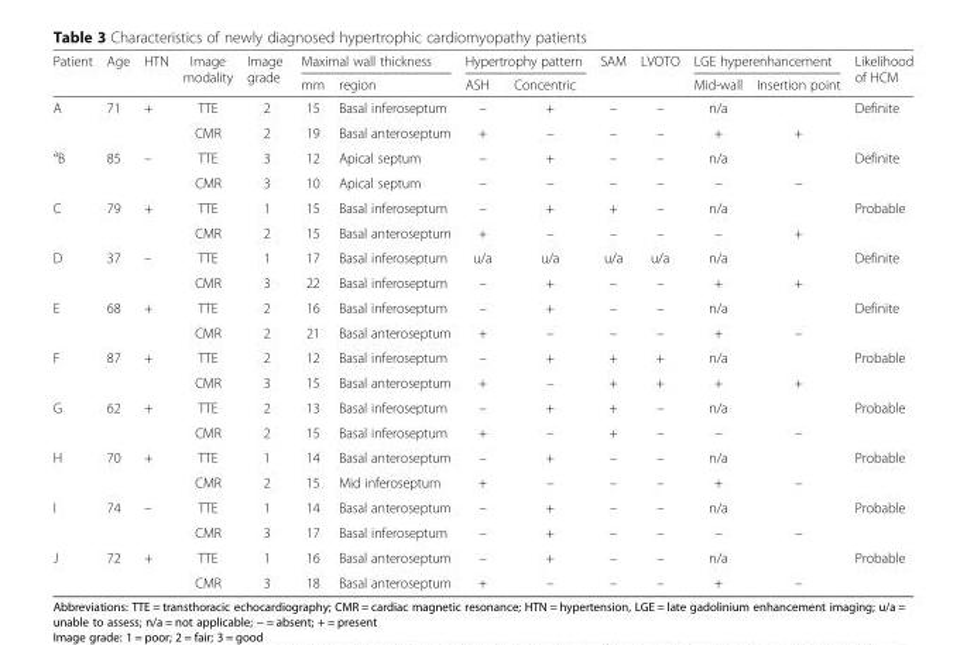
<table><thead><tr><td rowspan="2">Patient</td><td rowspan="2">Age</td><td rowspan="2">HTN</td><td rowspan="2">Image modality</td><td rowspan="2">Image grade</td><td colspan="2">Maximal wall thickness</td><td colspan="2">Hypertrophy pattern</td><td rowspan="2">SAM</td><td rowspan="2">LVOTO</td><td colspan="2">LGE hyperenhancement</td><td rowspan="2">Likelihood of HCM</td></tr><tr><td>mm</td><td>region</td><td>ASH</td><td>Concentric</td><td>Mid-wall</td><td>Insertion point</td></tr></thead><tbody><tr><td rowspan="2">A</td><td rowspan="2">71</td><td rowspan="2">+</td><td>TTE</td><td>2</td><td>15</td><td>Basal inferoseptum</td><td>–</td><td>+</td><td>–</td><td>–</td><td>n/a</td><td></td><td>Definite</td></tr><tr><td>CMR</td><td>2</td><td>19</td><td>Basal anteroseptum</td><td>+</td><td>–</td><td>–</td><td>–</td><td>+</td><td>+</td><td></td></tr><tr><td rowspan="2"><sup>a</sup>B</td><td rowspan="2">85</td><td rowspan="2">–</td><td>TTE</td><td>3</td><td>12</td><td>Apical septum</td><td>–</td><td>+</td><td>–</td><td>–</td><td>n/a</td><td></td><td>Definite</td></tr><tr><td>CMR</td><td>3</td><td>10</td><td>Apical septum</td><td>–</td><td>–</td><td>–</td><td>–</td><td>–</td><td>–</td><td></td></tr><tr><td rowspan="2">C</td><td rowspan="2">79</td><td rowspan="2">+</td><td>TTE</td><td>1</td><td>15</td><td>Basal inferoseptum</td><td>–</td><td>+</td><td>+</td><td>–</td><td>n/a</td><td></td><td>Probable</td></tr><tr><td>CMR</td><td>2</td><td>15</td><td>Basal anteroseptum</td><td>+</td><td>–</td><td>–</td><td>–</td><td>–</td><td>+</td><td></td></tr><tr><td rowspan="2">D</td><td rowspan="2">37</td><td rowspan="2">–</td><td>TTE</td><td>1</td><td>17</td><td>Basal inferoseptum</td><td>u/a</td><td>u/a</td><td>u/a</td><td>u/a</td><td>n/a</td><td></td><td>Definite</td></tr><tr><td>CMR</td><td>3</td><td>22</td><td>Basal inferoseptum</td><td>–</td><td>+</td><td>–</td><td>–</td><td>+</td><td>+</td><td></td></tr><tr><td rowspan="2">E</td><td rowspan="2">68</td><td rowspan="2">+</td><td>TTE</td><td>2</td><td>16</td><td>Basal inferoseptum</td><td>–</td><td>+</td><td>–</td><td>–</td><td>n/a</td><td></td><td>Definite</td></tr><tr><td>CMR</td><td>2</td><td>21</td><td>Basal anteroseptum</td><td>+</td><td>–</td><td>–</td><td>–</td><td>+</td><td>–</td><td></td></tr><tr><td rowspan="2">F</td><td rowspan="2">87</td><td rowspan="2">+</td><td>TTE</td><td>2</td><td>12</td><td>Basal inferoseptum</td><td>–</td><td>+</td><td>+</td><td>+</td><td>n/a</td><td></td><td>Probable</td></tr><tr><td>CMR</td><td>3</td><td>15</td><td>Basal anteroseptum</td><td>+</td><td>–</td><td>+</td><td>+</td><td>+</td><td>+</td><td></td></tr><tr><td rowspan="2">G</td><td rowspan="2">62</td><td rowspan="2">+</td><td>TTE</td><td>2</td><td>13</td><td>Basal inferoseptum</td><td>–</td><td>+</td><td>+</td><td>–</td><td>n/a</td><td></td><td>Probable</td></tr><tr><td>CMR</td><td>2</td><td>15</td><td>Basal inferoseptum</td><td>+</td><td>–</td><td>+</td><td>–</td><td>–</td><td>–</td><td></td></tr><tr><td rowspan="2">H</td><td rowspan="2">70</td><td rowspan="2">+</td><td>TTE</td><td>1</td><td>14</td><td>Basal anteroseptum</td><td>–</td><td>+</td><td>–</td><td>–</td><td>n/a</td><td></td><td>Probable</td></tr><tr><td>CMR</td><td>2</td><td>15</td><td>Mid inferoseptum</td><td>+</td><td>–</td><td>–</td><td>–</td><td>+</td><td>–</td><td></td></tr><tr><td rowspan="2">I</td><td rowspan="2">74</td><td rowspan="2">–</td><td>TTE</td><td>1</td><td>14</td><td>Basal anteroseptum</td><td>–</td><td>+</td><td>–</td><td>–</td><td>n/a</td><td></td><td>Probable</td></tr><tr><td>CMR</td><td>3</td><td>17</td><td>Basal inferoseptum</td><td>–</td><td>+</td><td>–</td><td>–</td><td>–</td><td>–</td><td></td></tr><tr><td rowspan="2">J</td><td rowspan="2">72</td><td rowspan="2">+</td><td>TTE</td><td>1</td><td>16</td><td>Basal anteroseptum</td><td>–</td><td>+</td><td>–</td><td>–</td><td>n/a</td><td></td><td>Probable</td></tr><tr><td>CMR</td><td>3</td><td>18</td><td>Basal anteroseptum</td><td>+</td><td>–</td><td>–</td><td>–</td><td>+</td><td>–</td><td></td></tr></tbody></table>